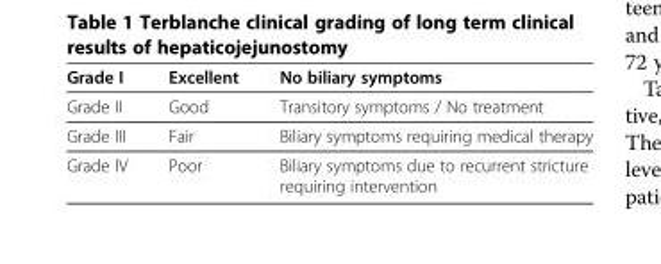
<table><thead><tr><td>Grade I</td><td>Excellent</td><td>No biliary symptoms</td></tr></thead><tbody><tr><td>Grade II</td><td>Good</td><td>Transitory symptoms / No treatment</td></tr><tr><td>Grade III</td><td>Fair</td><td>Biliary symptoms requiring medical therapy</td></tr><tr><td>Grade IV</td><td>Poor</td><td>Biliary symptoms due to recurrent stricture requiring intervention</td></tr></tbody></table>